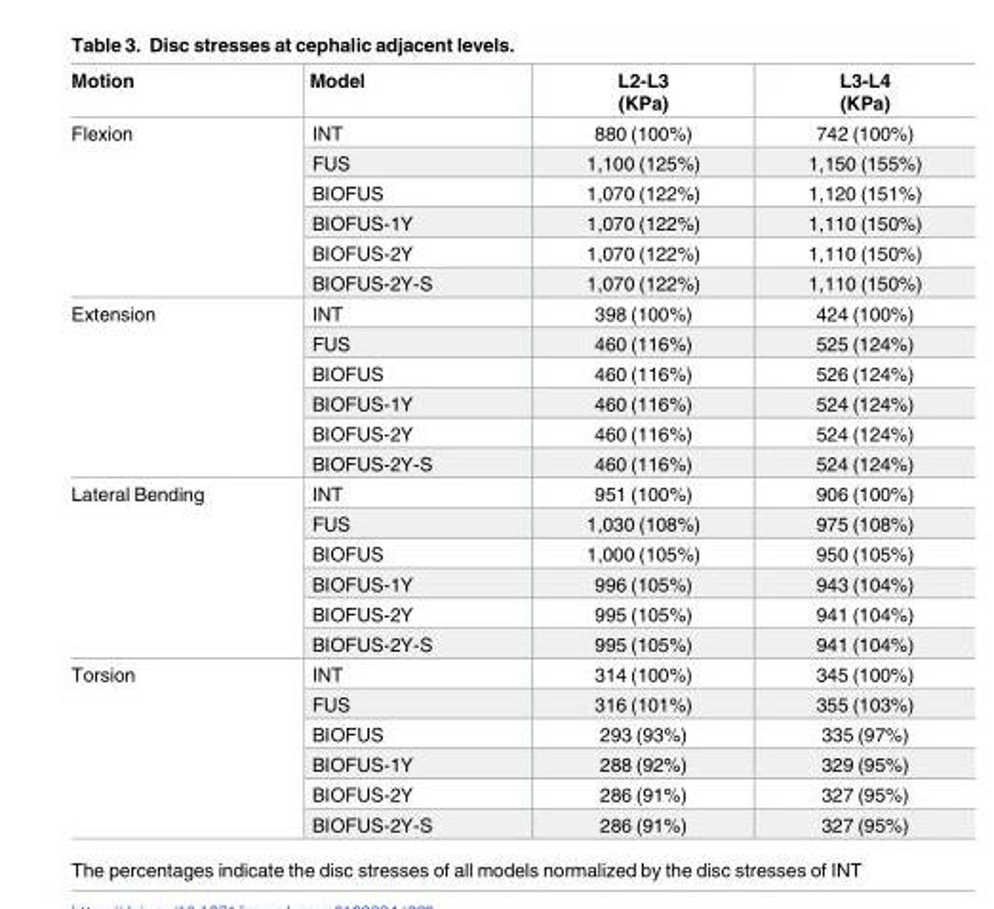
<table><thead><tr><td>Motion</td><td>Model</td><td>L2-L3 (KPa)</td><td>L3-L4 (KPa)</td></tr></thead><tbody><tr><td rowspan="6">Flexion</td><td>INT</td><td>880 (100%)</td><td>742 (100%)</td></tr><tr><td>FUS</td><td>1,100 (125%)</td><td>1,150 (155%)</td></tr><tr><td>BIOFUS</td><td>1,070 (122%)</td><td>1,120 (151%)</td></tr><tr><td>BIOFUS-1Y</td><td>1,070 (122%)</td><td>1,110 (150%)</td></tr><tr><td>BIOFUS-2Y</td><td>1,070 (122%)</td><td>1,110 (150%)</td></tr><tr><td>BIOFUS-2Y-S</td><td>1,070 (122%)</td><td>1,110 (150%)</td></tr><tr><td rowspan="6">Extension</td><td>INT</td><td>398 (100%)</td><td>424 (100%)</td></tr><tr><td>FUS</td><td>460 (116%)</td><td>525 (124%)</td></tr><tr><td>BIOFUS</td><td>460 (116%)</td><td>526 (124%)</td></tr><tr><td>BIOFUS-1Y</td><td>460 (116%)</td><td>524 (124%)</td></tr><tr><td>BIOFUS-2Y</td><td>460 (116%)</td><td>524 (124%)</td></tr><tr><td>BIOFUS-2Y-S</td><td>460 (116%)</td><td>524 (124%)</td></tr><tr><td rowspan="6">Lateral Bending</td><td>INT</td><td>951 (100%)</td><td>906 (100%)</td></tr><tr><td>FUS</td><td>1,030 (108%)</td><td>975 (108%)</td></tr><tr><td>BIOFUS</td><td>1,000 (105%)</td><td>950 (105%)</td></tr><tr><td>BIOFUS-1Y</td><td>996 (105%)</td><td>943 (104%)</td></tr><tr><td>BIOFUS-2Y</td><td>995 (105%)</td><td>941 (104%)</td></tr><tr><td>BIOFUS-2Y-S</td><td>995 (105%)</td><td>941 (104%)</td></tr><tr><td rowspan="6">Torsion</td><td>INT</td><td>314 (100%)</td><td>345 (100%)</td></tr><tr><td>FUS</td><td>316 (101%)</td><td>355 (103%)</td></tr><tr><td>BIOFUS</td><td>293 (93%)</td><td>335 (97%)</td></tr><tr><td>BIOFUS-1Y</td><td>288 (92%)</td><td>329 (95%)</td></tr><tr><td>BIOFUS-2Y</td><td>286 (91%)</td><td>327 (95%)</td></tr><tr><td>BIOFUS-2Y-S</td><td>286 (91%)</td><td>327 (95%)</td></tr></tbody></table>